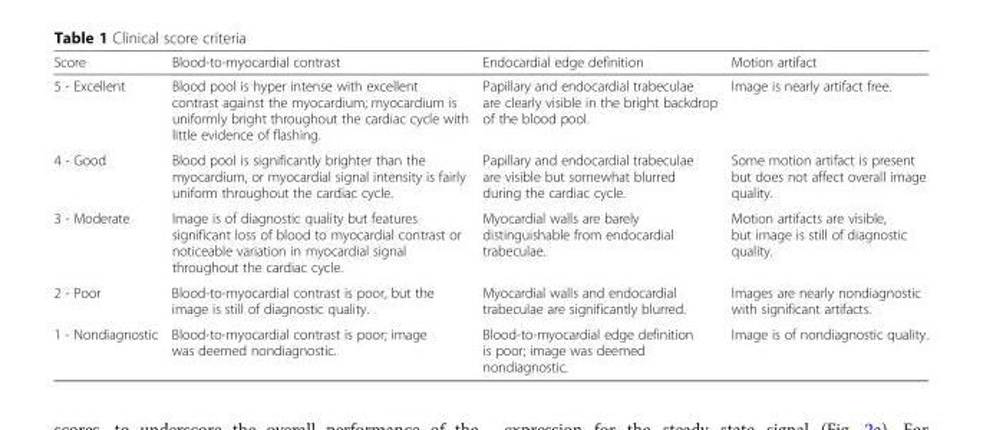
<table><thead><tr><td>Score</td><td>Blood-to-myocardial contrast</td><td>Endocardial edge definition</td><td>Motion artifact</td></tr></thead><tbody><tr><td>5 - Excellent</td><td>Blood pool is hyper intense with excellent contrast against the myocardium; myocardium is uniformly bright throughout the cardiac cycle with little evidence of flashing.</td><td>Papillary and endocardial trabeculae are clearly visible in the bright backdrop of the blood pool.</td><td>Image is nearly artifact free.</td></tr><tr><td>4 - Good</td><td>Blood pool is significantly brighter than the myocardium, or myocardial signal intensity is fairly uniform throughout the cardiac cycle.</td><td>Papillary and endocardial trabeculae are visible but somewhat blurred during the cardiac cycle.</td><td>Some motion artifact is present but does not affect overall image quality.</td></tr><tr><td>3 - Moderate</td><td>Image is of diagnostic quality but features significant loss of blood to myocardial contrast or noticeable variation in myocardial signal throughout the cardiac cycle.</td><td>Myocardial walls are barely distinguishable from endocardial trabeculae.</td><td>Motion artifacts are visible, but image is still of diagnostic quality.</td></tr><tr><td>2 - Poor</td><td>Blood-to-myocardial contrast is poor, but the image is still of diagnostic quality.</td><td>Myocardial walls and endocardial trabeculae are significantly blurred.</td><td>Images are nearly nondiagnostic with significant artifacts.</td></tr><tr><td>1 - Nondiagnostic</td><td>Blood-to-myocardial contrast is poor; image was deemed nondiagnostic.</td><td>Blood-to-myocardial edge definition is poor; image was deemed nondiagnostic.</td><td>Image is of nondiagnostic quality.</td></tr></tbody></table>